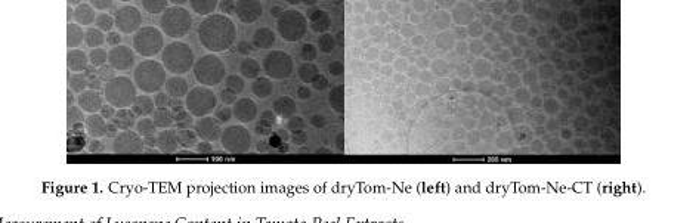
<table><thead><tr><td>Nanoemulsions</td><td>Mean Hydrodynamic Size (nm)</td><td>PDI</td><td>ζ-Potential (mV)</td></tr></thead><tbody><tr><td>Uncoated nanoemulsion loaded with fresh tomato extract</td><td>97.09 (0.59)</td><td>0.098 (0.011)</td><td>−22.9 (1.3)</td></tr><tr><td>Chitosan-coated nanoemulsion loaded with fresh tomato extract</td><td>139.6 (0.85)</td><td>0.076 (0.004)</td><td>49.6 (0.5)</td></tr><tr><td>Uncoated nanoemulsion loaded with dry tomato extract</td><td>93.23 (0.66)</td><td>0.122 (0.020)</td><td>−23.0 (0.9)</td></tr><tr><td>Chitosan-coated nanoemulsion loaded with dry tomato extract</td><td>128.8 (1.01)</td><td>0.056 (0.007)</td><td>46.1 (0.5)</td></tr><tr><td>Uncoated nanoemulsion loaded with curcumin</td><td>105.4 (2.83)</td><td>0.118 (0.049)</td><td>−22.0 (5.6)</td></tr><tr><td>Chitosan-coated nanoemulsion loaded with curcumin</td><td>119.8 (0.80)</td><td>0.079 (0.010)</td><td>44.3 (1.7)</td></tr><tr><td>Uncoated fluorescent nanoemulsion loaded with FITC</td><td>93.83 (0.86)</td><td>0.090 (0.016)</td><td>−30.5 (1.5)</td></tr><tr><td>Chitosan-coated fluorescent nanoemulsion loaded with FITC</td><td>94.50 (0.75)</td><td>0.075 (0.010)</td><td>23.7 (0.2)</td></tr></tbody></table>